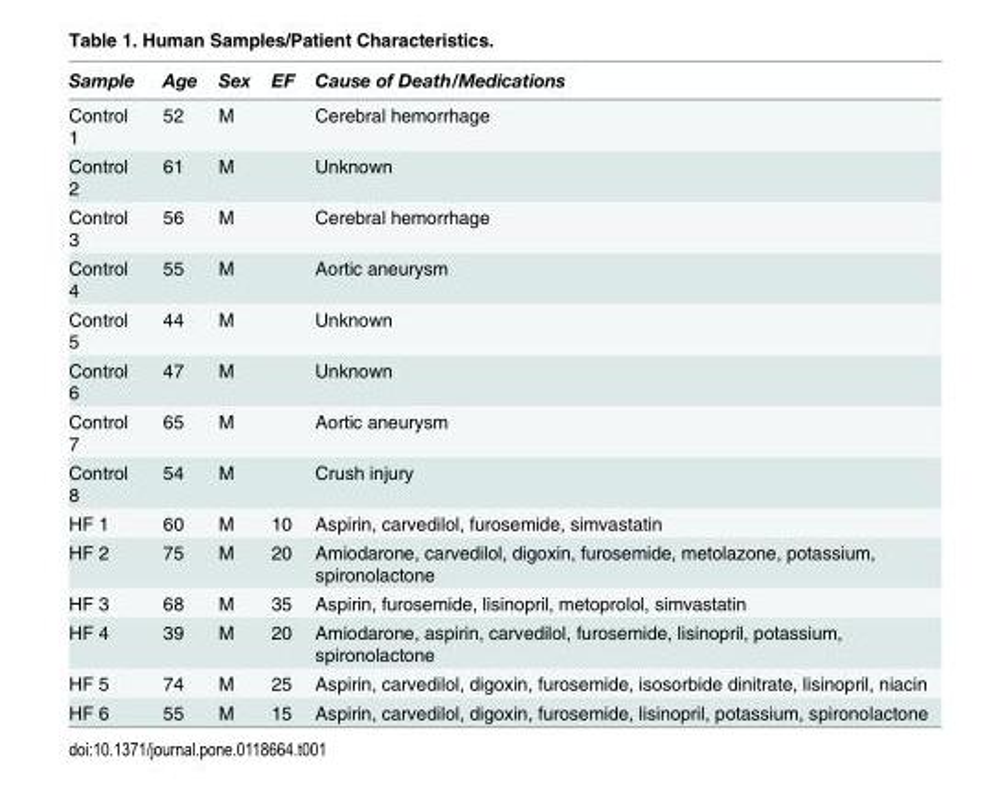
<table><thead><tr><td>Sample</td><td>Age</td><td>Sex</td><td>EF</td><td>Cause of Death/Medications</td></tr></thead><tbody><tr><td>Control 1</td><td>52</td><td>M</td><td></td><td>Cerebral hemorrhage</td></tr><tr><td>Control 2</td><td>61</td><td>M</td><td></td><td>Unknown</td></tr><tr><td>Control 3</td><td>56</td><td>M</td><td></td><td>Cerebral hemorrhage</td></tr><tr><td>Control 4</td><td>55</td><td>M</td><td></td><td>Aortic aneurysm</td></tr><tr><td>Control 5</td><td>44</td><td>M</td><td></td><td>Unknown</td></tr><tr><td>Control 6</td><td>47</td><td>M</td><td></td><td>Unknown</td></tr><tr><td>Control 7</td><td>65</td><td>M</td><td></td><td>Aortic aneurysm</td></tr><tr><td>Control 8</td><td>54</td><td>M</td><td></td><td>Crush injury</td></tr><tr><td>HF 1</td><td>60</td><td>M</td><td>10</td><td>Aspirin, carvedilol, furosemide, simvastatin</td></tr><tr><td>HF 2</td><td>75</td><td>M</td><td>20</td><td>Amiodarone, carvedilol, digoxin, furosemide, metolazone, potassium, spironolactone</td></tr><tr><td>HF 3</td><td>68</td><td>M</td><td>35</td><td>Aspirin, furosemide, lisinopril, metoprolol, simvastatin</td></tr><tr><td>HF 4</td><td>39</td><td>M</td><td>20</td><td>Amiodarone, aspirin, carvedilol, furosemide, lisinopril, potassium, spironolactone</td></tr><tr><td>HF 5</td><td>74</td><td>M</td><td>25</td><td>Aspirin, carvedilol, digoxin, furosemide, isosorbide dinitrate, lisinopril, niacin</td></tr><tr><td>HF 6</td><td>55</td><td>M</td><td>15</td><td>Aspirin, carvedilol, digoxin, furosemide, lisinopril, potassium, spironolactone</td></tr></tbody></table>